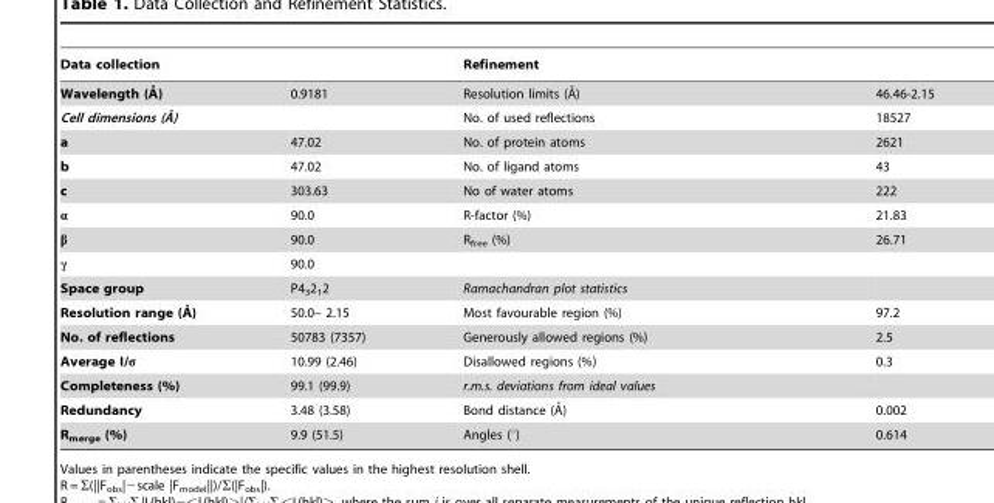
<table><thead><tr><td>Data collection</td><td></td><td>Refinement</td><td></td></tr></thead><tbody><tr><td>Wavelength (A˚)</td><td>0.9181</td><td>Resolution limits (A˚)</td><td>46.46-2.15</td></tr><tr><td>Cell dimensions (A˚)</td><td></td><td>No. of used reflections</td><td>18527</td></tr><tr><td>a</td><td>47.02</td><td>No. of protein atoms</td><td>2621</td></tr><tr><td>b</td><td>47.02</td><td>No. of ligand atoms</td><td>43</td></tr><tr><td>c</td><td>303.63</td><td>No of water atoms</td><td>222</td></tr><tr><td>α</td><td>90.0</td><td>R-factor (%)</td><td>21.83</td></tr><tr><td>β</td><td>90.0</td><td>R<sub>free</sub> (%)</td><td>26.71</td></tr><tr><td>γ</td><td>90.0</td><td></td><td></td></tr><tr><td>Space group</td><td>P4<sub>3</sub>2<sub>1</sub>2</td><td>Ramachandran plot statistics</td><td></td></tr><tr><td>Resolution range (A˚ )</td><td>50.0– 2.15</td><td>Most favourable region (%)</td><td>97.2</td></tr><tr><td>No. of reflections</td><td>50783 (7357)</td><td>Generously allowed regions (%)</td><td>2.5</td></tr><tr><td>Average I/σ</td><td>10.99 (2.46)</td><td>Disallowed regions (%)</td><td>0.3</td></tr><tr><td>Completeness (%)</td><td>99.1 (99.9)</td><td>r.m.s. deviations from ideal values</td><td></td></tr><tr><td>Redundancy</td><td>3.48 (3.58)</td><td>Bond distance (A˚)</td><td>0.002</td></tr><tr><td>R<sub>merge</sub> (%)</td><td>9.9 (51.5)</td><td>Angles (°)</td><td>0.614</td></tr></tbody></table>